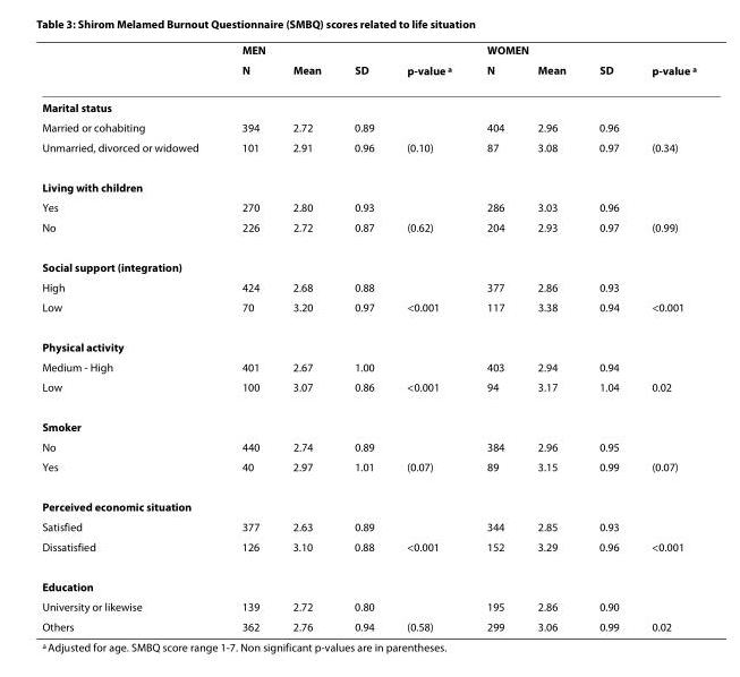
<table><thead><tr><td rowspan="2"></td><td colspan="3">MEN</td><td rowspan="2">p-value <sup>a</sup></td><td colspan="3">WOMEN</td><td rowspan="2">p-value <sup>a</sup></td></tr><tr><td>N</td><td>Mean</td><td>SD</td><td>N</td><td>Mean</td><td>SD</td></tr></thead><tbody><tr><td colspan="9">Marital status</td></tr><tr><td>Married or cohabiting</td><td>394</td><td>2.72</td><td>0.89</td><td></td><td>404</td><td>2.96</td><td>0.96</td><td></td></tr><tr><td>Unmarried, divorced or widowed</td><td>101</td><td>2.91</td><td>0.96</td><td>(0.10)</td><td>87</td><td>3.08</td><td>0.97</td><td>(0.34)</td></tr><tr><td colspan="9">Living with children</td></tr><tr><td>Yes</td><td>270</td><td>2.80</td><td>0.93</td><td></td><td>286</td><td>3.03</td><td>0.96</td><td></td></tr><tr><td>No</td><td>226</td><td>2.72</td><td>0.87</td><td>(0.62)</td><td>204</td><td>2.93</td><td>0.97</td><td>(0.99)</td></tr><tr><td colspan="9">Social support (integration)</td></tr><tr><td>High</td><td>424</td><td>2.68</td><td>0.88</td><td></td><td>377</td><td>2.86</td><td>0.93</td><td></td></tr><tr><td>Low</td><td>70</td><td>3.20</td><td>0.97</td><td>&lt;0.001</td><td>117</td><td>3.38</td><td>0.94</td><td>&lt;0.001</td></tr><tr><td colspan="9">Physical activity</td></tr><tr><td>Medium - High</td><td>401</td><td>2.67</td><td>1.00</td><td></td><td>403</td><td>2.94</td><td>0.94</td><td></td></tr><tr><td>Low</td><td>100</td><td>3.07</td><td>0.86</td><td>&lt;0.001</td><td>94</td><td>3.17</td><td>1.04</td><td>0.02</td></tr><tr><td colspan="9">Smoker</td></tr><tr><td>No</td><td>440</td><td>2.74</td><td>0.89</td><td></td><td>384</td><td>2.96</td><td>0.95</td><td></td></tr><tr><td>Yes</td><td>40</td><td>2.97</td><td>1.01</td><td>(0.07)</td><td>89</td><td>3.15</td><td>0.99</td><td>(0.07)</td></tr><tr><td colspan="9">Perceived economic situation</td></tr><tr><td>Satisfied</td><td>377</td><td>2.63</td><td>0.89</td><td></td><td>344</td><td>2.85</td><td>0.93</td><td></td></tr><tr><td>Dissatisfied</td><td>126</td><td>3.10</td><td>0.88</td><td>&lt;0.001</td><td>152</td><td>3.29</td><td>0.96</td><td>&lt;0.001</td></tr><tr><td colspan="9">Education</td></tr><tr><td>University or likewise</td><td>139</td><td>2.72</td><td>0.80</td><td></td><td>195</td><td>2.86</td><td>0.90</td><td></td></tr><tr><td>Others</td><td>362</td><td>2.76</td><td>0.94</td><td>(0.58)</td><td>299</td><td>3.06</td><td>0.99</td><td>0.02</td></tr></tbody></table>